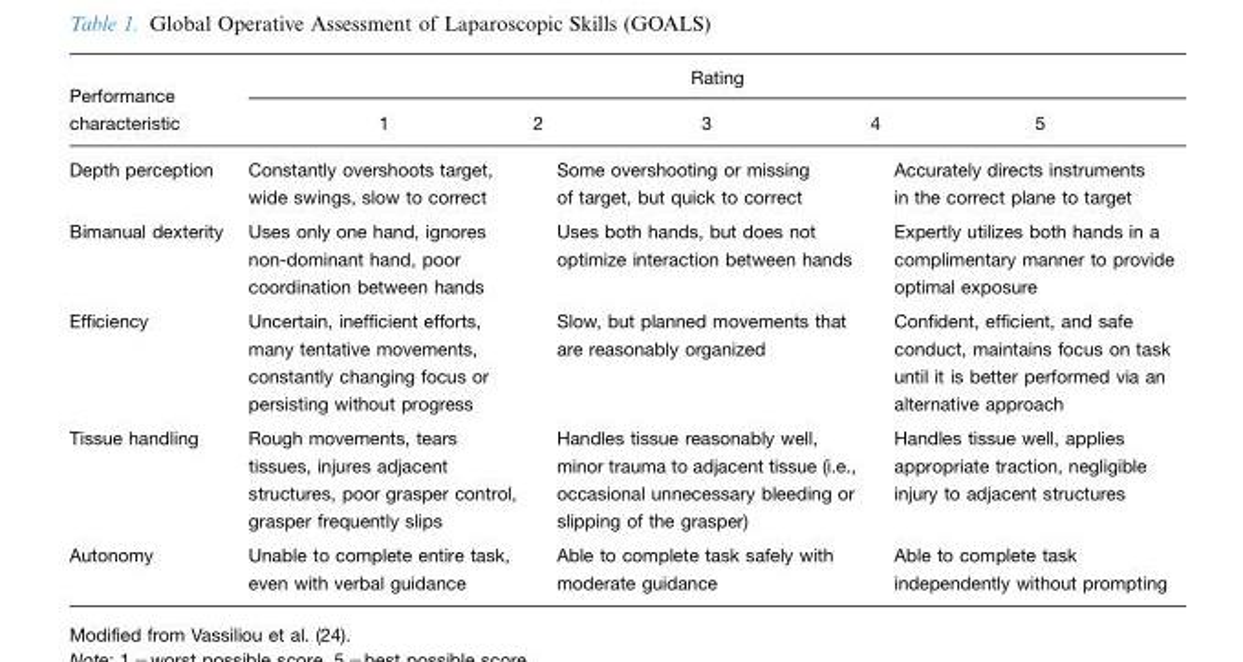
<table><thead><tr><td rowspan="2">Performance characteristic</td><td colspan="5">Rating</td></tr><tr><td>1</td><td>2</td><td>3</td><td>4</td><td>5</td></tr></thead><tbody><tr><td>Depth perception</td><td>Constantly overshoots target, wide swings, slow to correct</td><td></td><td>Some overshooting or missing of target, but quick to correct</td><td></td><td>Accurately directs instruments in the correct plane to target</td></tr><tr><td>Bimanual dexterity</td><td>Uses only one hand, ignores non-dominant hand, poor coordination between hands</td><td></td><td>Uses both hands, but does not optimize interaction between hands</td><td></td><td>Expertly utilizes both hands in a complimentary manner to provide optimal exposure</td></tr><tr><td>Efficiency</td><td>Uncertain, inefficient efforts, many tentative movements, constantly changing focus or persisting without progress</td><td></td><td>Slow, but planned movements that are reasonably organized</td><td></td><td>Confident, efficient, and safe conduct, maintains focus on task until it is better performed via an alternative approach</td></tr><tr><td>Tissue handling</td><td>Rough movements, tears tissues, injures adjacent structures, poor grasper control, grasper frequently slips</td><td></td><td>Handles tissue reasonably well, minor trauma to adjacent tissue (i.e., occasional unnecessary bleeding or slipping of the grasper)</td><td></td><td>Handles tissue well, applies appropriate traction, negligible injury to adjacent structures</td></tr><tr><td>Autonomy</td><td>Unable to complete entire task, even with verbal guidance</td><td></td><td>Able to complete task safely with moderate guidance</td><td></td><td>Able to complete task independently without prompting</td></tr></tbody></table>